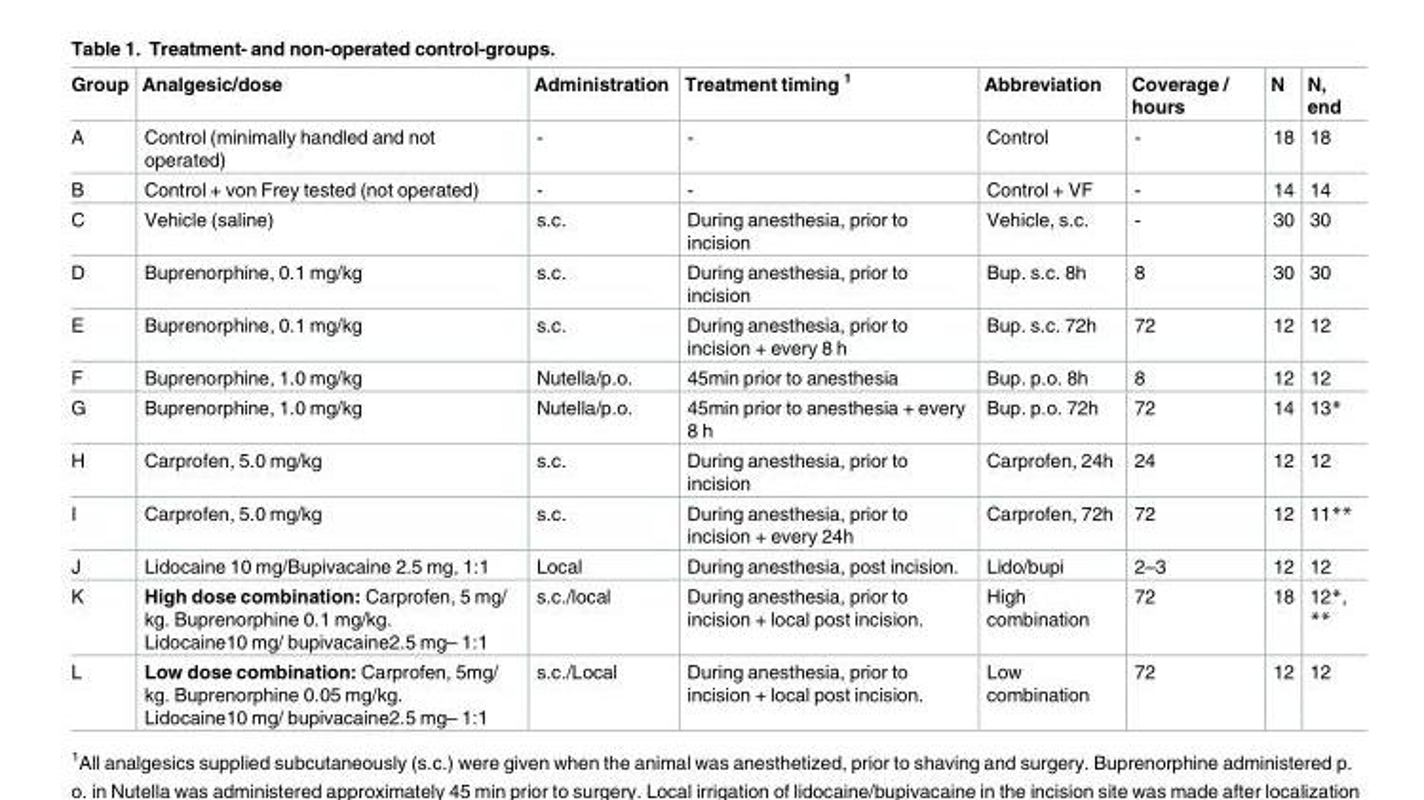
<table><thead><tr><td>Group</td><td>Analgesic/dose</td><td>Administration</td><td>Treatment timing <sup>1</sup></td><td>Abbreviation</td><td>Coverage / hours</td><td>N</td><td>N, end</td></tr></thead><tbody><tr><td>A</td><td>Control (minimally handled and not operated)</td><td>-</td><td>-</td><td>Control</td><td>-</td><td>18</td><td>18</td></tr><tr><td>B</td><td>Control + von Frey tested (not operated)</td><td>-</td><td>-</td><td>Control + VF</td><td>-</td><td>14</td><td>14</td></tr><tr><td>C</td><td>Vehicle (saline)</td><td>s.c.</td><td>During anesthesia, prior to incision</td><td>Vehicle, s.c.</td><td>-</td><td>30</td><td>30</td></tr><tr><td>D</td><td>Buprenorphine, 0.1 mg/kg</td><td>s.c.</td><td>During anesthesia, prior to incision</td><td>Bup. s.c. 8h</td><td>8</td><td>30</td><td>30</td></tr><tr><td>E</td><td>Buprenorphine, 0.1 mg/kg</td><td>s.c.</td><td>During anesthesia, prior to incision + every 8 h</td><td>Bup. s.c. 72h</td><td>72</td><td>12</td><td>12</td></tr><tr><td>F</td><td>Buprenorphine, 1.0 mg/kg</td><td>Nutella/p.o.</td><td>45min prior to anesthesia</td><td>Bup. p.o. 8h</td><td>8</td><td>12</td><td>12</td></tr><tr><td>G</td><td>Buprenorphine, 1.0 mg/kg</td><td>Nutella/p.o.</td><td>45min prior to anesthesia + every 8 h</td><td>Bup. p.o. 72h</td><td>72</td><td>14</td><td>13*</td></tr><tr><td>H</td><td>Carprofen, 5.0 mg/kg</td><td>s.c.</td><td>During anesthesia, prior to incision</td><td>Carprofen, 24h</td><td>24</td><td>12</td><td>12</td></tr><tr><td>I</td><td>Carprofen, 5.0 mg/kg</td><td>s.c.</td><td>During anesthesia, prior to incision + every 24h</td><td>Carprofen, 72h</td><td>72</td><td>12</td><td>11**</td></tr><tr><td>J</td><td>Lidocaine 10 mg/Bupivacaine 2.5 mg, 1:1</td><td>Local</td><td>During anesthesia, post incision.</td><td>Lido/bupi</td><td>2–3</td><td>12</td><td>12</td></tr><tr><td>K</td><td>High dose combination: Carprofen, 5 mg/ kg. Buprenorphine 0.1 mg/kg. Lidocaine10 mg/ bupivacaine2.5 mg– 1:1</td><td>s.c./local</td><td>During anesthesia, prior to incision + local post incision.</td><td>High combination</td><td>72</td><td>18</td><td>12*, **</td></tr><tr><td>L</td><td>Low dose combination: Carprofen, 5mg/ kg. Buprenorphine 0.05 mg/kg. Lidocaine10 mg/ bupivacaine2.5 mg– 1:1</td><td>s.c./Local</td><td>During anesthesia, prior to incision + local post incision.</td><td>Low combination</td><td>72</td><td>12</td><td>12</td></tr></tbody></table>